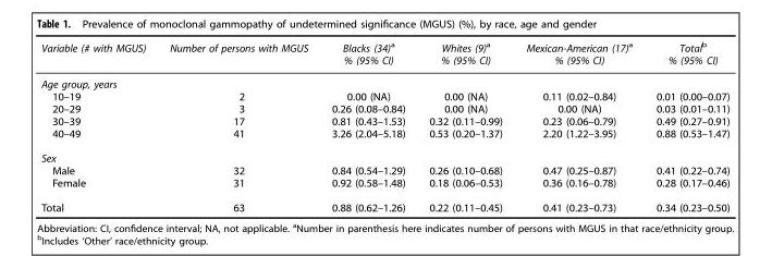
<table><thead><tr><td>Variable (# with MGUS)</td><td>Number of persons with MGUS</td><td>Blacks (34)<sup>a</sup> % (95% CI)</td><td>Whites (9)<sup>a</sup> % (95% CI)</td><td>Mexican-American (17)<sup>a</sup> % (95% CI)</td><td>Total<sup>b</sup> % (95% CI)</td></tr></thead><tbody><tr><td colspan="6">Age group, years</td></tr><tr><td>10–19</td><td>2</td><td>0.00 (NA)</td><td>0.00 (NA)</td><td>0.11 (0.02–0.84)</td><td>0.01 (0.00–0.07)</td></tr><tr><td>20–29</td><td>3</td><td>0.26 (0.08–0.84)</td><td>0.00 (NA)</td><td>0.00 (NA)</td><td>0.03 (0.01–0.11)</td></tr><tr><td>30–39</td><td>17</td><td>0.81 (0.43–1.53)</td><td>0.32 (0.11–0.99)</td><td>0.23 (0.06–0.79)</td><td>0.49 (0.27–0.91)</td></tr><tr><td>40–49</td><td>41</td><td>3.26 (2.04–5.18)</td><td>0.53 (0.20–1.37)</td><td>2.20 (1.22–3.95)</td><td>0.88 (0.53–1.47)</td></tr><tr><td colspan="6">Sex</td></tr><tr><td>Male</td><td>32</td><td>0.84 (0.54–1.29)</td><td>0.26 (0.10–0.68)</td><td>0.47 (0.25–0.87)</td><td>0.41 (0.22–0.74)</td></tr><tr><td>Female</td><td>31</td><td>0.92 (0.58–1.48)</td><td>0.18 (0.06–0.53)</td><td>0.36 (0.16–0.78)</td><td>0.28 (0.17–0.46)</td></tr><tr><td>Total</td><td>63</td><td>0.88 (0.62–1.26)</td><td>0.22 (0.11–0.45)</td><td>0.41 (0.23–0.73)</td><td>0.34 (0.23–0.50)</td></tr></tbody></table>